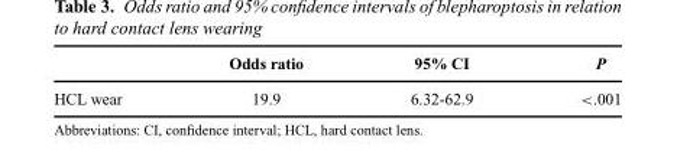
<table><thead><tr><td></td><td>Odds ratio</td><td>95% CI</td><td>P</td></tr></thead><tbody><tr><td>HCL wear</td><td>19.9</td><td>6.32-62.9</td><td>&lt;.001</td></tr></tbody></table>